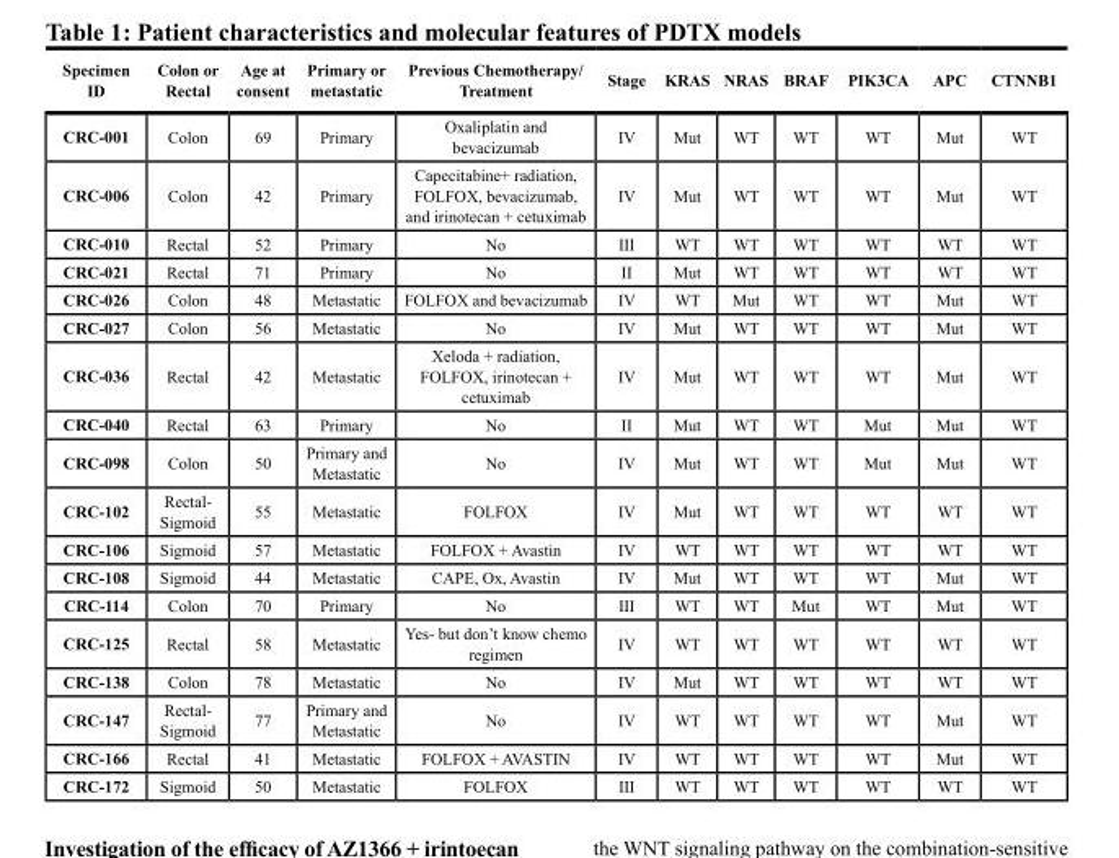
<table><thead><tr><td>Specimen ID</td><td>Colon or Rectal</td><td>Age at consent</td><td>Primary or metastatic</td><td>Previous Chemotherapy/ Treatment</td><td>Stage</td><td>KRAS</td><td>NRAS</td><td>BRAF</td><td>PIK3CA</td><td>APC</td><td>CTNNB1</td></tr></thead><tbody><tr><td>CRC-001</td><td>Colon</td><td>69</td><td>Primary</td><td>Oxaliplatin and bevacizumab</td><td>IV</td><td>Mut</td><td>WT</td><td>WT</td><td>WT</td><td>Mut</td><td>WT</td></tr><tr><td>CRC-006</td><td>Colon</td><td>42</td><td>Primary</td><td>Capecitabine+ radiation, FOLFOX, bevacizumab, and irinotecan + cetuximab</td><td>IV</td><td>Mut</td><td>WT</td><td>WT</td><td>WT</td><td>Mut</td><td>WT</td></tr><tr><td>CRC-010</td><td>Rectal</td><td>52</td><td>Primary</td><td>No</td><td>III</td><td>WT</td><td>WT</td><td>WT</td><td>WT</td><td>WT</td><td>WT</td></tr><tr><td>CRC-021</td><td>Rectal</td><td>71</td><td>Primary</td><td>No</td><td>II</td><td>Mut</td><td>WT</td><td>WT</td><td>WT</td><td>WT</td><td>WT</td></tr><tr><td>CRC-026</td><td>Colon</td><td>48</td><td>Metastatic</td><td>FOLFOX and bevacizumab</td><td>IV</td><td>WT</td><td>Mut</td><td>WT</td><td>WT</td><td>Mut</td><td>WT</td></tr><tr><td>CRC-027</td><td>Colon</td><td>56</td><td>Metastatic</td><td>No</td><td>IV</td><td>Mut</td><td>WT</td><td>WT</td><td>WT</td><td>Mut</td><td>WT</td></tr><tr><td>CRC-036</td><td>Rectal</td><td>42</td><td>Metastatic</td><td>Xeloda + radiation, FOLFOX, irinotecan + cetuximab</td><td>IV</td><td>Mut</td><td>WT</td><td>WT</td><td>WT</td><td>Mut</td><td>WT</td></tr><tr><td>CRC-040</td><td>Rectal</td><td>63</td><td>Primary</td><td>No</td><td>II</td><td>Mut</td><td>WT</td><td>WT</td><td>Mut</td><td>Mut</td><td>WT</td></tr><tr><td>CRC-098</td><td>Colon</td><td>50</td><td>Primary and Metastatic</td><td>No</td><td>IV</td><td>Mut</td><td>WT</td><td>WT</td><td>Mut</td><td>Mut</td><td>WT</td></tr><tr><td>CRC-102</td><td>Rectal- Sigmoid</td><td>55</td><td>Metastatic</td><td>FOLFOX</td><td>IV</td><td>Mut</td><td>WT</td><td>WT</td><td>WT</td><td>WT</td><td>WT</td></tr><tr><td>CRC-106</td><td>Sigmoid</td><td>57</td><td>Metastatic</td><td>FOLFOX + Avastin</td><td>IV</td><td>WT</td><td>WT</td><td>WT</td><td>WT</td><td>WT</td><td>WT</td></tr><tr><td>CRC-108</td><td>Sigmoid</td><td>44</td><td>Metastatic</td><td>CAPE, Ox, Avastin</td><td>IV</td><td>Mut</td><td>WT</td><td>WT</td><td>WT</td><td>Mut</td><td>WT</td></tr><tr><td>CRC-114</td><td>Colon</td><td>70</td><td>Primary</td><td>No</td><td>III</td><td>WT</td><td>WT</td><td>Mut</td><td>WT</td><td>Mut</td><td>WT</td></tr><tr><td>CRC-125</td><td>Rectal</td><td>58</td><td>Metastatic</td><td>Yes- but don’t know chemo regimen</td><td>IV</td><td>WT</td><td>WT</td><td>WT</td><td>WT</td><td>WT</td><td>WT</td></tr><tr><td>CRC-138</td><td>Colon</td><td>78</td><td>Metastatic</td><td>No</td><td>IV</td><td>Mut</td><td>WT</td><td>WT</td><td>WT</td><td>WT</td><td>WT</td></tr><tr><td>CRC-147</td><td>Rectal- Sigmoid</td><td>77</td><td>Primary and Metastatic</td><td>No</td><td>IV</td><td>WT</td><td>WT</td><td>WT</td><td>WT</td><td>Mut</td><td>WT</td></tr><tr><td>CRC-166</td><td>Rectal</td><td>41</td><td>Metastatic</td><td>FOLFOX + AVASTIN</td><td>IV</td><td>WT</td><td>WT</td><td>WT</td><td>WT</td><td>Mut</td><td>WT</td></tr><tr><td>CRC-172</td><td>Sigmoid</td><td>50</td><td>Metastatic</td><td>FOLFOX</td><td>III</td><td>WT</td><td>WT</td><td>WT</td><td>WT</td><td>WT</td><td>WT</td></tr></tbody></table>